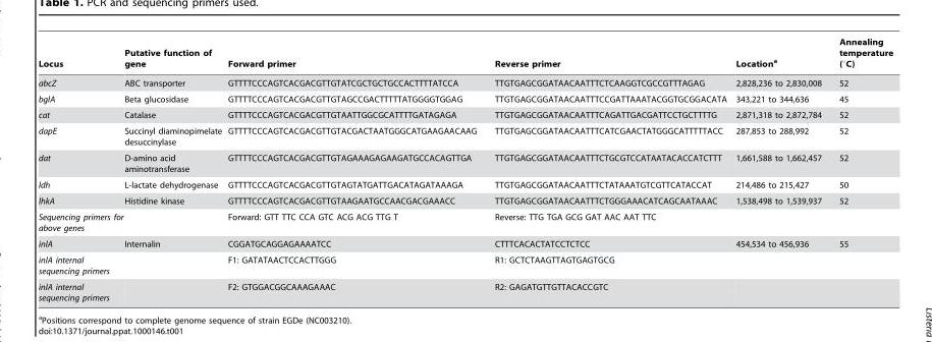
<table><thead><tr><td>Locus</td><td>Putative function of gene</td><td>Forward primer</td><td>Reverse primer</td><td>Location<sup>a</sup></td><td>Annealing temperature (°C)</td></tr></thead><tbody><tr><td>abcZ</td><td>ABC transporter</td><td>GTTTTCCCAGTCACGACGTTGTATCGCTGCTGCCACTTTTATCCA</td><td>TTGTGAGCGGATAACAATTTCTCAAGGTCGCCGTTTAGAG</td><td>2,828,236 to 2,830,008</td><td>52</td></tr><tr><td>bglA</td><td>Beta glucosidase</td><td>GTTTTCCCAGTCACGACGTTGTAGCCGACTTTTTATGGGGTGGAG</td><td>TTGTGAGCGGATAACAATTTCCGATTAAATACGGTGCGGACATA</td><td>343,221 to 344,636</td><td>45</td></tr><tr><td>cat</td><td>Catalase</td><td>GTTTTCCCAGTCACGACGTTGTAATTGGCGCATTTTGATAGAGA</td><td>TTGTGAGCGGATAACAATTTCAGATTGACGATTCCTGCTTTTG</td><td>2,871,318 to 2,872,784</td><td>52</td></tr><tr><td>dapE</td><td>Succinyl diaminopimelate desuccinylase</td><td>GTTTTCCCAGTCACGACGTTGTACGACTAATGGGCATGAAGAACAAG</td><td>TTGTGAGCGGATAACAATTTCATCGAACTATGGGCATTTTTACC</td><td>287,853 to 288,992</td><td>52</td></tr><tr><td>dat</td><td>D-amino acid aminotransferase</td><td>GTTTTCCCAGTCACGACGTTGTAGAAAGAGAAGATGCCACAGTTGA</td><td>TTGTGAGCGGATAACAATTTCTGCGTCCATAATACACCATCTTT</td><td>1,661,588 to 1,662,457</td><td>52</td></tr><tr><td>ldh</td><td>L-lactate dehydrogenase</td><td>GTTTTCCCAGTCACGACGTTGTAGTATGATTGACATAGATAAAGA</td><td>TTGTGAGCGGATAACAATTTCTATAAATGTCGTTCATACCAT</td><td>214,486 to 215,427</td><td>50</td></tr><tr><td>lhkA</td><td>Histidine kinase</td><td>GTTTTCCCAGTCACGACGTTGTAAGAATGCCAACGACGAAACC</td><td>TTGTGAGCGGATAACAATTTCTGGGAAACATCAGCAATAAAC</td><td>1,538,498 to 1,539,937</td><td>52</td></tr><tr><td>Sequencing primers for above genes</td><td></td><td>Forward: GTT TTC CCA GTC ACG ACG TTG T</td><td>Reverse: TTG TGA GCG GAT AAC AAT TTC</td><td></td><td></td></tr><tr><td>inlA</td><td>Internalin</td><td>CGGATGCAGGAGAAAATCC</td><td>CTTTCACACTATCCTCTCC</td><td>454,534 to 456,936</td><td>55</td></tr><tr><td>inlA internal sequencing primers</td><td></td><td>F1: GATATAACTCCACTTGGG</td><td>R1: GCTCTAAGTTAGTGAGTGCG</td><td></td><td></td></tr><tr><td>inlA internal sequencing primers</td><td></td><td>F2: GTGGACGGCAAAGAAAC</td><td>R2: GAGATGTTGTTACACCGTC</td><td></td><td></td></tr></tbody></table>